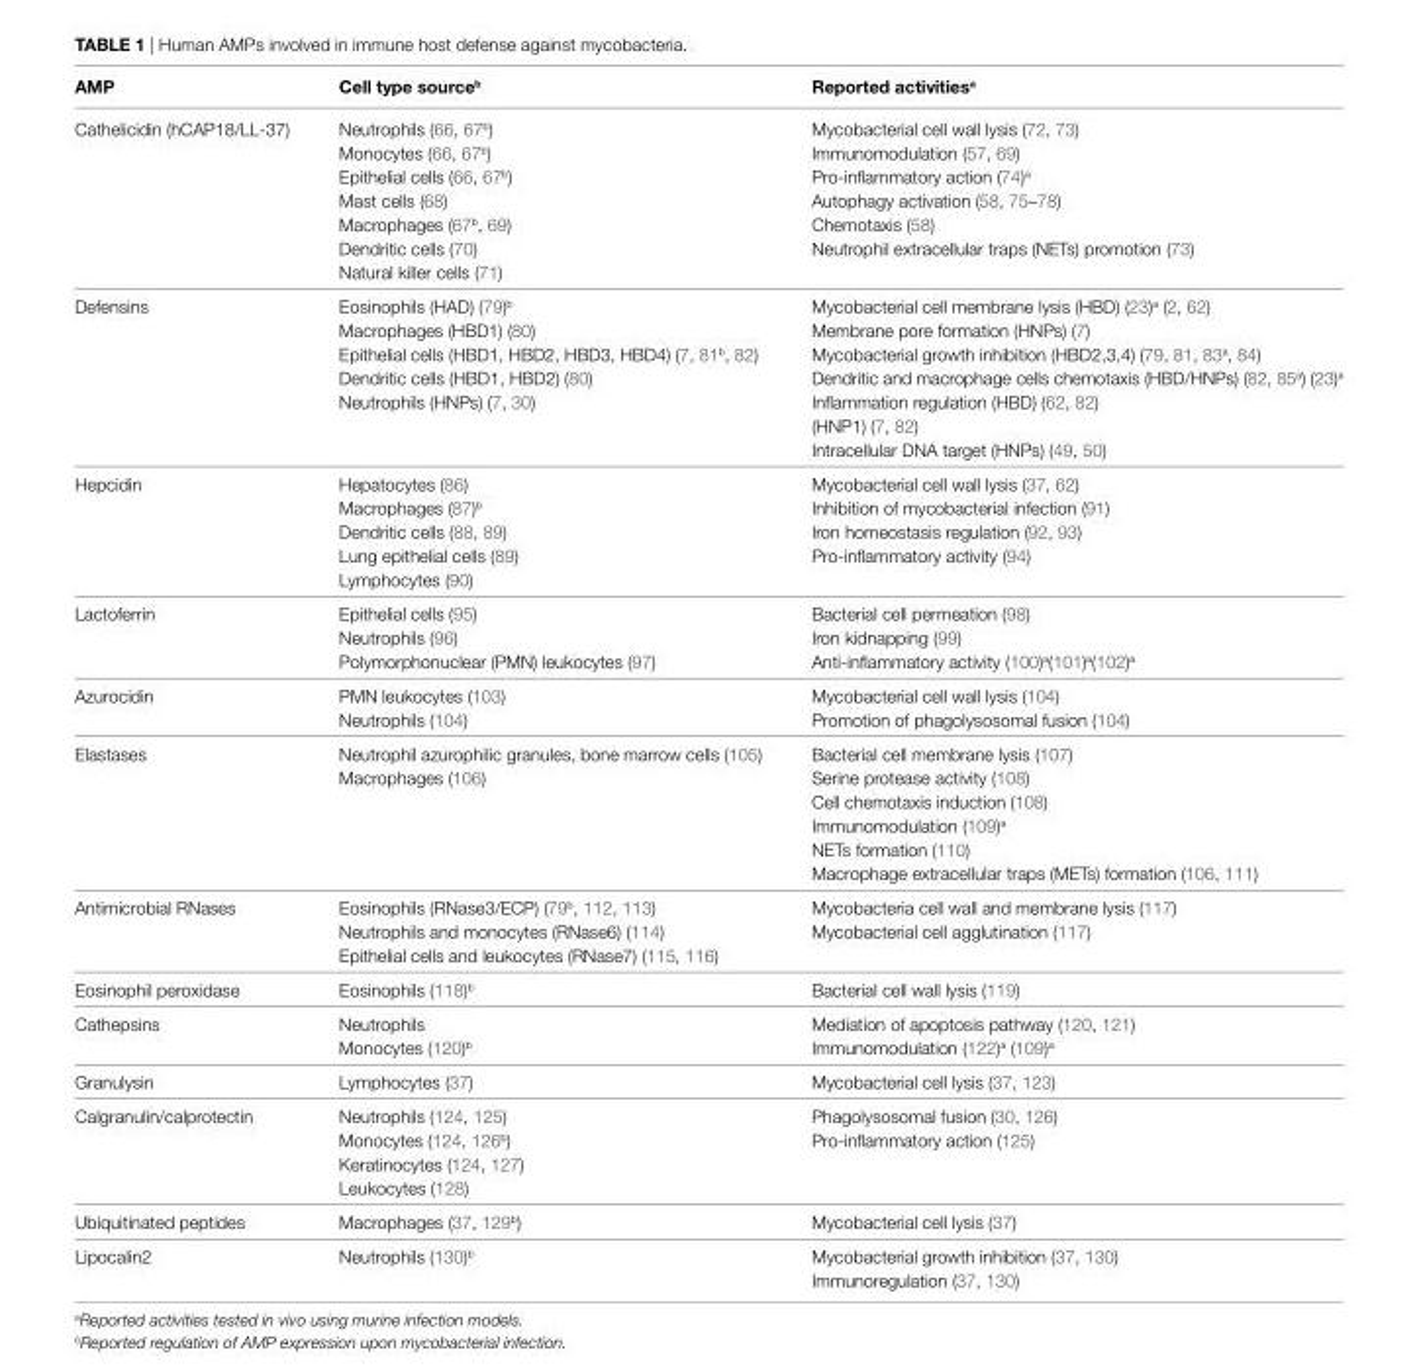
<table><thead><tr><td>AMP</td><td>Cell type source<sup>b</sup></td><td>Reported activities<sup>a</sup></td></tr></thead><tbody><tr><td>Cathelicidin (hCAP18/LL-37)</td><td>Neutrophils (66, 67<sup>b</sup>) Monocytes (66, 67<sup>b</sup>) Epithelial cells (66, 67<sup>b</sup>) Mast cells (68) Macrophages (67<sup>b</sup>, 69) Dendritic cells (70) Natural killer cells (71)</td><td>Mycobacterial cell wall lysis (72, 73) Immunomodulation (57, 69) Pro-inflammatory action (74)<sup>a</sup> Autophagy activation (58, 75–78) Chemotaxis (58) Neutrophil extracellular traps (NETs) promotion (73)</td></tr><tr><td>Defensins</td><td>Eosinophils (HAD) (79)<sup>b</sup> Macrophages (HBD1) (80) Epithelial cells (HBD1, HBD2, HBD3, HBD4) (7, 81<sup>b</sup>, 82) Dendritic cells (HBD1, HBD2) (80) Neutrophils (HNPs) (7, 30)</td><td>Mycobacterial cell membrane lysis (HBD) (23)<sup>a</sup> (2, 62) Membrane pore formation (HNPs) (7) Mycobacterial growth inhibition (HBD2,3,4) (79, 81, 83<sup>a</sup>, 84) Dendritic and macrophage cells chemotaxis (HBD/HNPs) (82, 85<sup>a</sup>) (23)<sup>a</sup> Inflammation regulation (HBD) (62, 82) (HNP1) (7, 82) Intracellular DNA target (HNPs) (49, 50)</td></tr><tr><td>Hepcidin</td><td>Hepatocytes (86) Macrophages (87)<sup>b</sup> Dendritic cells (88, 89) Lung epithelial cells (89) Lymphocytes (90)</td><td>Mycobacterial cell wall lysis (37, 62) Inhibition of mycobacterial infection (91) Iron homeostasis regulation (92, 93) Pro-inflammatory activity (94)</td></tr><tr><td>Lactoferrin</td><td>Epithelial cells (95) Neutrophils (96) Polymorphonuclear (PMN) leukocytes (97)</td><td>Bacterial cell permeation (98) Iron kidnapping (99) Anti-inflammatory activity (100)<sup>a</sup>(101)<sup>a</sup>(102)<sup>a</sup></td></tr><tr><td>Azurocidin</td><td>PMN leukocytes (103) Neutrophils (104)</td><td>Mycobacterial cell wall lysis (104) Promotion of phagolysosomal fusion (104)</td></tr><tr><td>Elastases</td><td>Neutrophil azurophilic granules, bone marrow cells (105) Macrophages (106)</td><td>Bacterial cell membrane lysis (107) Serine protease activity (108) Cell chemotaxis induction (108) Immunomodulation (109)<sup>a</sup> NETs formation (110) Macrophage extracellular traps (METs) formation (106, 111)</td></tr><tr><td>Antimicrobial RNases</td><td>Eosinophils (RNase3/ECP) (79<sup>b</sup>, 112, 113) Neutrophils and monocytes (RNase6) (114) Epithelial cells and leukocytes (RNase7) (115, 116)</td><td>Mycobacteria cell wall and membrane lysis (117) Mycobacterial cell agglutination (117)</td></tr><tr><td>Eosinophil peroxidase</td><td>Eosinophils (118)<sup>b</sup></td><td>Bacterial cell wall lysis (119)</td></tr><tr><td>Cathepsins</td><td>Neutrophils Monocytes (120)<sup>b</sup></td><td>Mediation of apoptosis pathway (120, 121) Immunomodulation (122)<sup>a</sup> (109)<sup>a</sup></td></tr><tr><td>Granulysin</td><td>Lymphocytes (37)</td><td>Mycobacterial cell lysis (37, 123)</td></tr><tr><td>Calgranulin/calprotectin</td><td>Neutrophils (124, 125) Monocytes (124, 126<sup>b</sup>) Keratinocytes (124, 127) Leukocytes (128)</td><td>Phagolysosomal fusion (30, 126) Pro-inflammatory action (125)</td></tr><tr><td>Ubiquitinated peptides</td><td>Macrophages (37, 129<sup>b</sup>)</td><td>Mycobacterial cell lysis (37)</td></tr><tr><td>Lipocalin2</td><td>Neutrophils (130)<sup>b</sup></td><td>Mycobacterial growth inhibition (37, 130) Immunoregulation (37, 130)</td></tr></tbody></table>